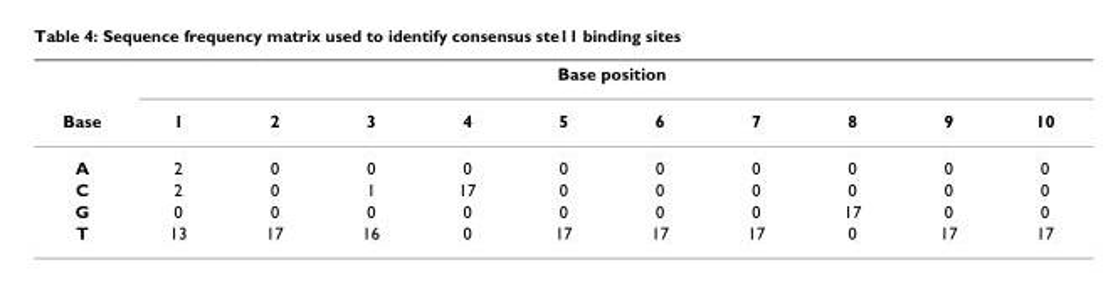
<table><thead><tr><td rowspan="2">Base</td><td colspan="10">Base position</td></tr><tr><td>1</td><td>2</td><td>3</td><td>4</td><td>5</td><td>6</td><td>7</td><td>8</td><td>9</td><td>10</td></tr></thead><tbody><tr><td>A</td><td>2</td><td>0</td><td>0</td><td>0</td><td>0</td><td>0</td><td>0</td><td>0</td><td>0</td><td>0</td></tr><tr><td>C</td><td>2</td><td>0</td><td>1</td><td>17</td><td>0</td><td>0</td><td>0</td><td>0</td><td>0</td><td>0</td></tr><tr><td>G</td><td>0</td><td>0</td><td>0</td><td>0</td><td>0</td><td>0</td><td>0</td><td>17</td><td>0</td><td>0</td></tr><tr><td>T</td><td>13</td><td>17</td><td>16</td><td>0</td><td>17</td><td>17</td><td>17</td><td>0</td><td>17</td><td>17</td></tr></tbody></table>